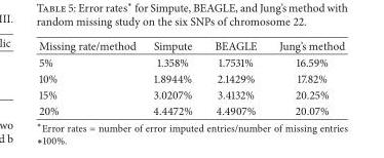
<table><thead><tr><td>Missing rate/method</td><td>Simpute</td><td>BEAGLE</td><td>Jung’s method</td></tr></thead><tbody><tr><td>5%</td><td>1.358%</td><td>1.7531%</td><td>16.59%</td></tr><tr><td>10%</td><td>1.8944%</td><td>2.1429%</td><td>17.82%</td></tr><tr><td>15%</td><td>3.0207%</td><td>3.4132%</td><td>20.25%</td></tr><tr><td>20%</td><td>4.4472%</td><td>4.4907%</td><td>20.07%</td></tr></tbody></table>